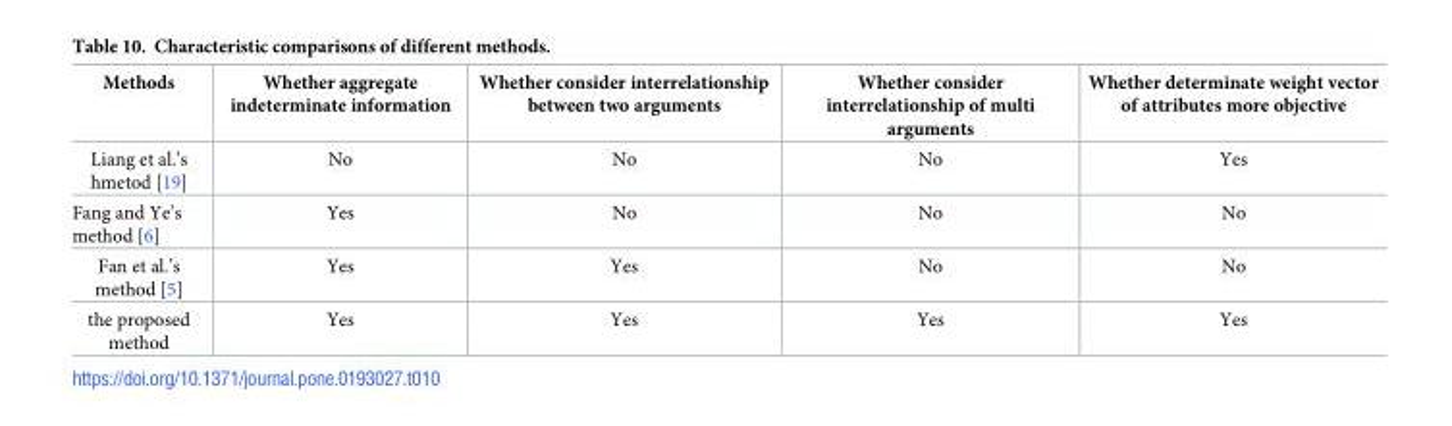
<table><thead><tr><td>Methods</td><td>Whether aggregate indeterminate information</td><td>Whether consider interrelationship between two arguments</td><td>Whether consider interrelationship of multi arguments</td><td>Whether determinate weight vector of attributes more objective</td></tr></thead><tbody><tr><td>Liang et al.’s hmetod [19]</td><td>No</td><td>No</td><td>No</td><td>Yes</td></tr><tr><td>Fang and Ye’s method [6]</td><td>Yes</td><td>No</td><td>No</td><td>No</td></tr><tr><td>Fan et al.’s method [5]</td><td>Yes</td><td>Yes</td><td>No</td><td>No</td></tr><tr><td>the proposed method</td><td>Yes</td><td>Yes</td><td>Yes</td><td>Yes</td></tr></tbody></table>